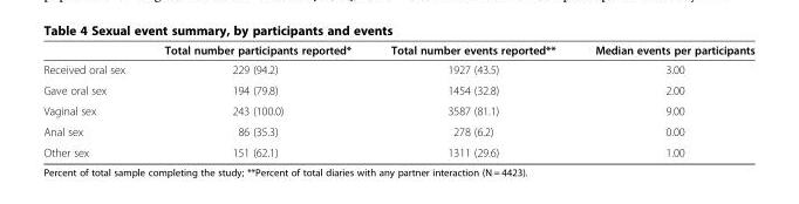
<table><thead><tr><td></td><td>Total number participants reported*</td><td>Total number events reported**</td><td>Median events per participants</td></tr></thead><tbody><tr><td>Received oral sex</td><td>229 (94.2)</td><td>1927 (43.5)</td><td>3.00</td></tr><tr><td>Gave oral sex</td><td>194 (79.8)</td><td>1454 (32.8)</td><td>2.00</td></tr><tr><td>Vaginal sex</td><td>243 (100.0)</td><td>3587 (81.1)</td><td>9.00</td></tr><tr><td>Anal sex</td><td>86 (35.3)</td><td>278 (6.2)</td><td>0.00</td></tr><tr><td>Other sex</td><td>151 (62.1)</td><td>1311 (29.6)</td><td>1.00</td></tr></tbody></table>